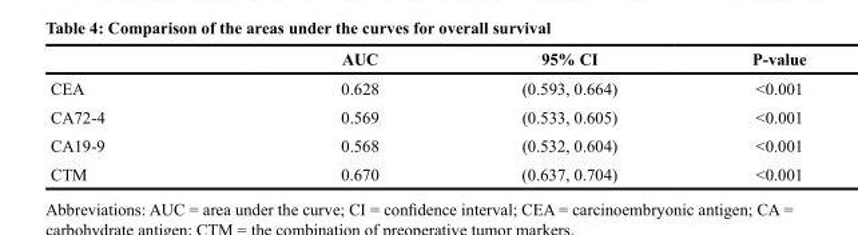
<table><thead><tr><td></td><td>AUC</td><td>95% CI</td><td>P-value</td></tr></thead><tbody><tr><td>CEA</td><td>0.628</td><td>(0.593, 0.664)</td><td>&lt;0.001</td></tr><tr><td>CA72-4</td><td>0.569</td><td>(0.533, 0.605)</td><td>&lt;0.001</td></tr><tr><td>CA19-9</td><td>0.568</td><td>(0.532, 0.604)</td><td>&lt;0.001</td></tr><tr><td>CTM</td><td>0.670</td><td>(0.637, 0.704)</td><td>&lt;0.001</td></tr></tbody></table>